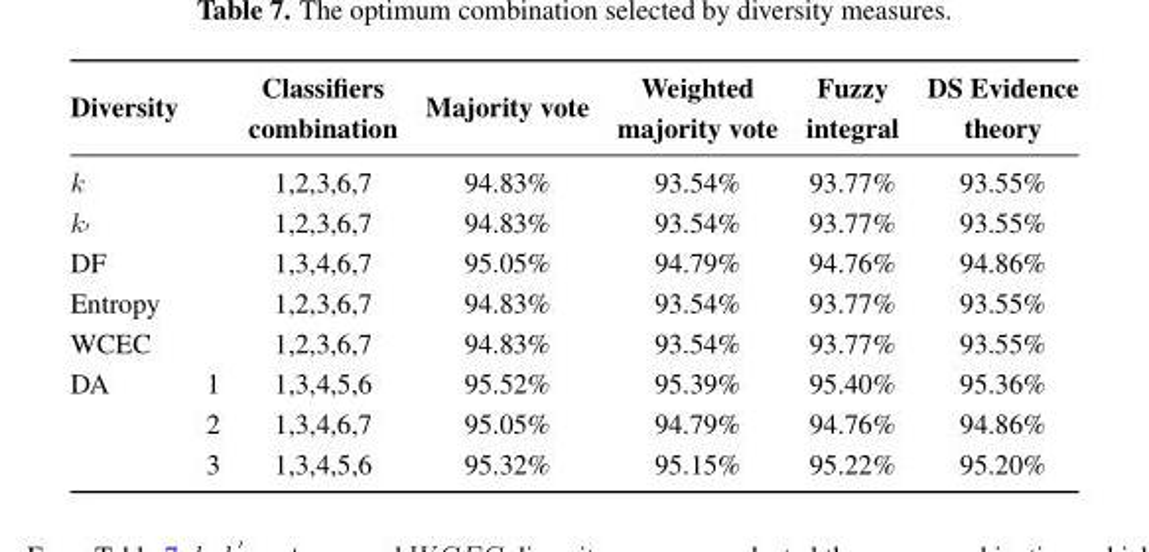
<table><thead><tr><td>Diversity</td><td></td><td>Classifiers combination</td><td>Majority vote</td><td>Weighted majority vote</td><td>Fuzzy integral</td><td>DS Evidence theory</td></tr></thead><tbody><tr><td>k</td><td></td><td>1,2,3,6,7</td><td>94.83%</td><td>93.54%</td><td>93.77%</td><td>93.55%</td></tr><tr><td>k′</td><td></td><td>1,2,3,6,7</td><td>94.83%</td><td>93.54%</td><td>93.77%</td><td>93.55%</td></tr><tr><td>DF</td><td></td><td>1,3,4,6,7</td><td>95.05%</td><td>94.79%</td><td>94.76%</td><td>94.86%</td></tr><tr><td>Entropy</td><td></td><td>1,2,3,6,7</td><td>94.83%</td><td>93.54%</td><td>93.77%</td><td>93.55%</td></tr><tr><td>WCEC</td><td></td><td>1,2,3,6,7</td><td>94.83%</td><td>93.54%</td><td>93.77%</td><td>93.55%</td></tr><tr><td rowspan="3">DA</td><td>1</td><td>1,3,4,5,6</td><td>95.52%</td><td>95.39%</td><td>95.40%</td><td>95.36%</td></tr><tr><td>2</td><td>1,3,4,6,7</td><td>95.05%</td><td>94.79%</td><td>94.76%</td><td>94.86%</td></tr><tr><td>3</td><td>1,3,4,5,6</td><td>95.32%</td><td>95.15%</td><td>95.22%</td><td>95.20%</td></tr></tbody></table>